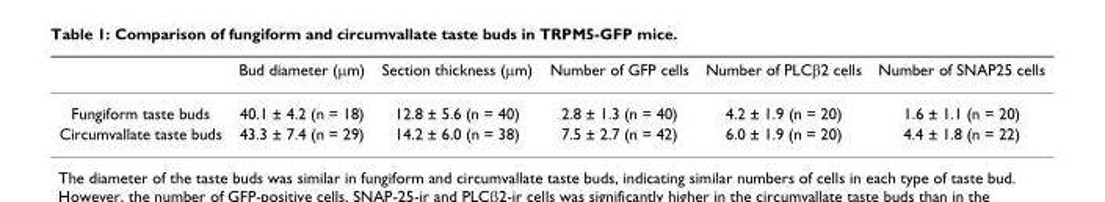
<table><thead><tr><td></td><td>Bud diameter (µm)</td><td>Section thickness (µm)</td><td>Number of GFP cells</td><td>Number of PLCβ2 cells</td><td>Number of SNAP25 cells</td></tr></thead><tbody><tr><td>Fungiform taste buds</td><td>40.1 ± 4.2 (n = 18)</td><td>12.8 ± 5.6 (n = 40)</td><td>2.8 ± 1.3 (n = 40)</td><td>4.2 ± 1.9 (n = 20)</td><td>1.6 ± 1.1 (n = 20)</td></tr><tr><td>Circumvallate taste buds</td><td>43.3 ± 7.4 (n = 29)</td><td>14.2 ± 6.0 (n = 38)</td><td>7.5 ± 2.7 (n = 42)</td><td>6.0 ± 1.9 (n = 20)</td><td>4.4 ± 1.8 (n = 22)</td></tr></tbody></table>